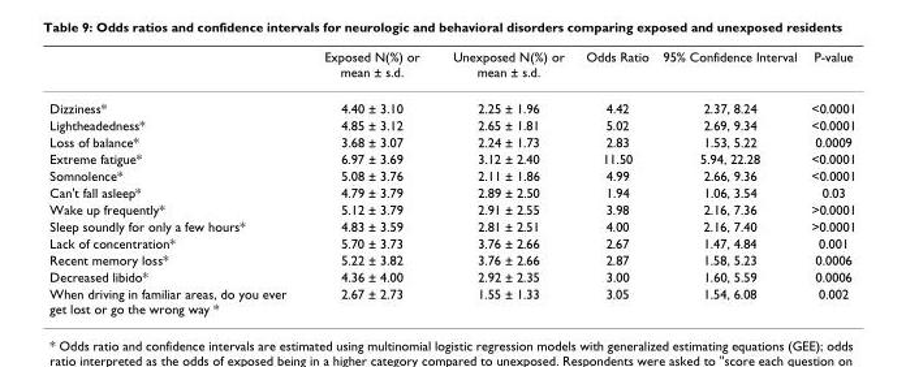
<table><thead><tr><td></td><td>Exposed N(%) or mean ± s.d.</td><td>Unexposed N(%) or mean ± s.d.</td><td>Odds Ratio</td><td>95% Confidence Interval</td><td>P-value</td></tr></thead><tbody><tr><td>Dizziness*</td><td>4.40 ± 3.10</td><td>2.25 ± 1.96</td><td>4.42</td><td>2.37, 8.24</td><td>&lt;0.0001</td></tr><tr><td>Lightheadedness*</td><td>4.85 ± 3.12</td><td>2.65 ± 1.81</td><td>5.02</td><td>2.69, 9.34</td><td>&lt;0.0001</td></tr><tr><td>Loss of balance*</td><td>3.68 ± 3.07</td><td>2.24 ± 1.73</td><td>2.83</td><td>1.53, 5.22</td><td>0.0009</td></tr><tr><td>Extreme fatigue*</td><td>6.97 ± 3.69</td><td>3.12 ± 2.40</td><td>11.50</td><td>5.94, 22.28</td><td>&lt;0.0001</td></tr><tr><td>Somnolence*</td><td>5.08 ± 3.76</td><td>2.11 ± 1.86</td><td>4.99</td><td>2.66, 9.36</td><td>&lt;0.0001</td></tr><tr><td>Can&#x27;t fall asleep*</td><td>4.79 ± 3.79</td><td>2.89 ± 2.50</td><td>1.94</td><td>1.06, 3.54</td><td>0.03</td></tr><tr><td>Wake up frequently*</td><td>5.12 ± 3.79</td><td>2.91 ± 2.55</td><td>3.98</td><td>2.16, 7.36</td><td>&gt;0.0001</td></tr><tr><td>Sleep soundly for only a few hours*</td><td>4.83 ± 3.59</td><td>2.81 ± 2.51</td><td>4.00</td><td>2.16, 7.40</td><td>&gt;0.0001</td></tr><tr><td>Lack of concentration*</td><td>5.70 ± 3.73</td><td>3.76 ± 2.66</td><td>2.67</td><td>1.47, 4.84</td><td>0.001</td></tr><tr><td>Recent memory loss*</td><td>5.22 ± 3.82</td><td>3.76 ± 2.66</td><td>2.87</td><td>1.58, 5.23</td><td>0.0006</td></tr><tr><td>Decreased libido*</td><td>4.36 ± 4.00</td><td>2.92 ± 2.35</td><td>3.00</td><td>1.60, 5.59</td><td>0.0006</td></tr><tr><td>When driving in familiar areas, do you ever get lost or go the wrong way *</td><td>2.67 ± 2.73</td><td>1.55 ± 1.33</td><td>3.05</td><td>1.54, 6.08</td><td>0.002</td></tr></tbody></table>